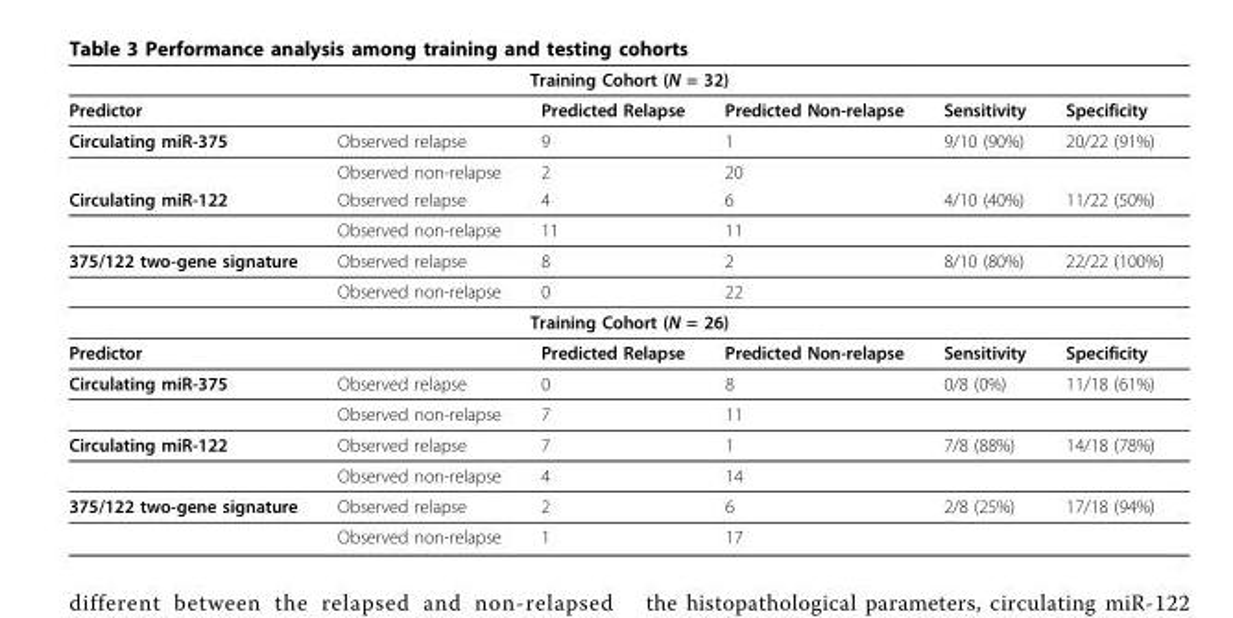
<table><thead><tr><td colspan="6">Training Cohort (N = 32)</td></tr><tr><td>Predictor</td><td></td><td>Predicted Relapse</td><td>Predicted Non-relapse</td><td>Sensitivity</td><td>Specificity</td></tr></thead><tbody><tr><td rowspan="2">Circulating miR-375</td><td>Observed relapse</td><td>9</td><td>1</td><td>9/10 (90%)</td><td>20/22 (91%)</td></tr><tr><td>Observed non-relapse</td><td>2</td><td>20</td><td></td><td></td></tr><tr><td rowspan="2">Circulating miR-122</td><td>Observed relapse</td><td>4</td><td>6</td><td>4/10 (40%)</td><td>11/22 (50%)</td></tr><tr><td>Observed non-relapse</td><td>11</td><td>11</td><td></td><td></td></tr><tr><td rowspan="2">375/122 two-gene signature</td><td>Observed relapse</td><td>8</td><td>2</td><td>8/10 (80%)</td><td>22/22 (100%)</td></tr><tr><td>Observed non-relapse</td><td>0</td><td>22</td><td></td><td></td></tr><tr><td colspan="6">Training Cohort (N = 26)</td></tr><tr><td>Predictor</td><td></td><td>Predicted Relapse</td><td>Predicted Non-relapse</td><td>Sensitivity</td><td>Specificity</td></tr><tr><td rowspan="2">Circulating miR-375</td><td>Observed relapse</td><td>0</td><td>8</td><td>0/8 (0%)</td><td>11/18 (61%)</td></tr><tr><td>Observed non-relapse</td><td>7</td><td>11</td><td></td><td></td></tr><tr><td rowspan="2">Circulating miR-122</td><td>Observed relapse</td><td>7</td><td>1</td><td>7/8 (88%)</td><td>14/18 (78%)</td></tr><tr><td>Observed non-relapse</td><td>4</td><td>14</td><td></td><td></td></tr><tr><td rowspan="2">375/122 two-gene signature</td><td>Observed relapse</td><td>2</td><td>6</td><td>2/8 (25%)</td><td>17/18 (94%)</td></tr><tr><td>Observed non-relapse</td><td>1</td><td>17</td><td></td><td></td></tr></tbody></table>